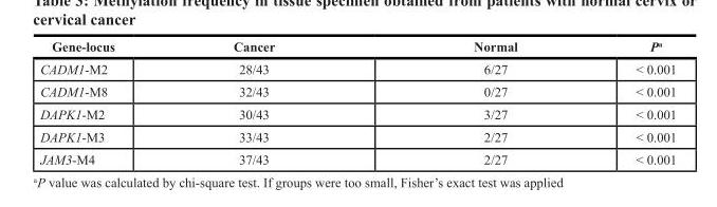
<table><thead><tr><td>Gene-locus</td><td>Cancer</td><td>Normal</td><td>P<sup>a</sup></td></tr></thead><tbody><tr><td>CADM1-M2</td><td>28/43</td><td>6/27</td><td>&lt; 0.001</td></tr><tr><td>CADM1-M8</td><td>32/43</td><td>0/27</td><td>&lt; 0.001</td></tr><tr><td>DAPK1-M2</td><td>30/43</td><td>3/27</td><td>&lt; 0.001</td></tr><tr><td>DAPK1-M3</td><td>33/43</td><td>2/27</td><td>&lt; 0.001</td></tr><tr><td>JAM3-M4</td><td>37/43</td><td>2/27</td><td>&lt; 0.001</td></tr></tbody></table>